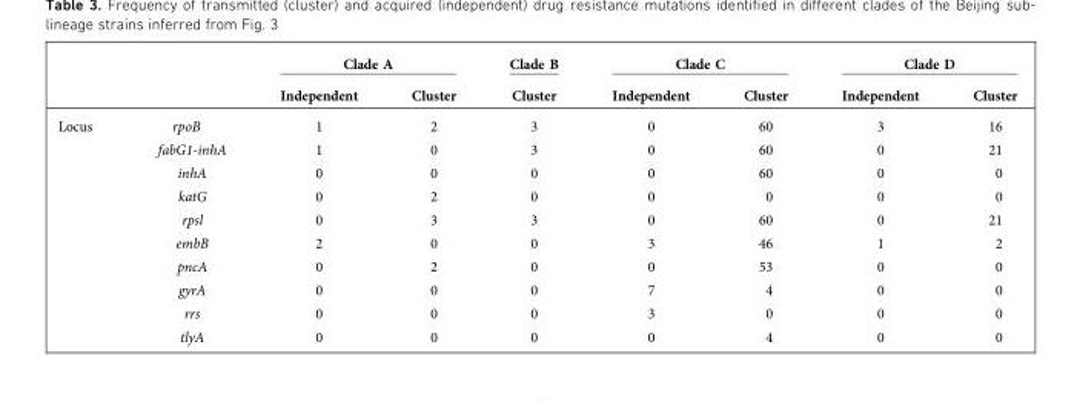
<table><thead><tr><td rowspan="2"></td><td rowspan="2"></td><td colspan="2">Clade A</td><td rowspan="2">Clade B Cluster</td><td colspan="2">Clade C</td><td colspan="2">Clade D</td></tr><tr><td>Independent</td><td>Cluster</td><td>Independent</td><td>Cluster</td><td>Independent</td><td>Cluster</td></tr></thead><tbody><tr><td rowspan="10">Locus</td><td>rpoB</td><td>1</td><td>2</td><td>3</td><td>0</td><td>60</td><td>3</td><td>16</td></tr><tr><td>fabG1-inhA</td><td>1</td><td>0</td><td>3</td><td>0</td><td>60</td><td>0</td><td>21</td></tr><tr><td>inhA</td><td>0</td><td>0</td><td>0</td><td>0</td><td>60</td><td>0</td><td>0</td></tr><tr><td>katG</td><td>0</td><td>2</td><td>0</td><td>0</td><td>0</td><td>0</td><td>0</td></tr><tr><td>rpsl</td><td>0</td><td>3</td><td>3</td><td>0</td><td>60</td><td>0</td><td>21</td></tr><tr><td>embB</td><td>2</td><td>0</td><td>0</td><td>3</td><td>46</td><td>1</td><td>2</td></tr><tr><td>pncA</td><td>0</td><td>2</td><td>0</td><td>0</td><td>53</td><td>0</td><td>0</td></tr><tr><td>gyrA</td><td>0</td><td>0</td><td>0</td><td>7</td><td>4</td><td>0</td><td>0</td></tr><tr><td>rrs</td><td>0</td><td>0</td><td>0</td><td>3</td><td>0</td><td>0</td><td>0</td></tr><tr><td>tlyA</td><td>0</td><td>0</td><td>0</td><td>0</td><td>4</td><td>0</td><td>0</td></tr></tbody></table>